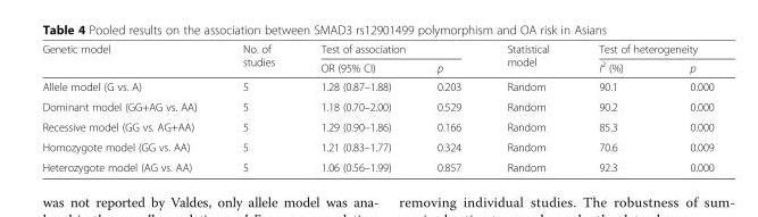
<table><thead><tr><td rowspan="2">Genetic model</td><td rowspan="2">No. of studies</td><td colspan="2">Test of association</td><td rowspan="2">Statistical model</td><td colspan="2">Test of heterogeneity</td></tr><tr><td>OR (95% CI)</td><td>p</td><td>I<sup>2</sup> (%)</td><td>p</td></tr></thead><tbody><tr><td>Allele model (G vs. A)</td><td>5</td><td>1.28 (0.87–1.88)</td><td>0.203</td><td>Random</td><td>90.1</td><td>0.000</td></tr><tr><td>Dominant model (GG+AG vs. AA)</td><td>5</td><td>1.18 (0.70–2.00)</td><td>0.529</td><td>Random</td><td>90.2</td><td>0.000</td></tr><tr><td>Recessive model (GG vs. AG+AA)</td><td>5</td><td>1.29 (0.90–1.86)</td><td>0.166</td><td>Random</td><td>85.3</td><td>0.000</td></tr><tr><td>Homozygote model (GG vs. AA)</td><td>5</td><td>1.21 (0.83–1.77)</td><td>0.324</td><td>Random</td><td>70.6</td><td>0.009</td></tr><tr><td>Heterozygote model (AG vs. AA)</td><td>5</td><td>1.06 (0.56–1.99)</td><td>0.857</td><td>Random</td><td>92.3</td><td>0.000</td></tr></tbody></table>